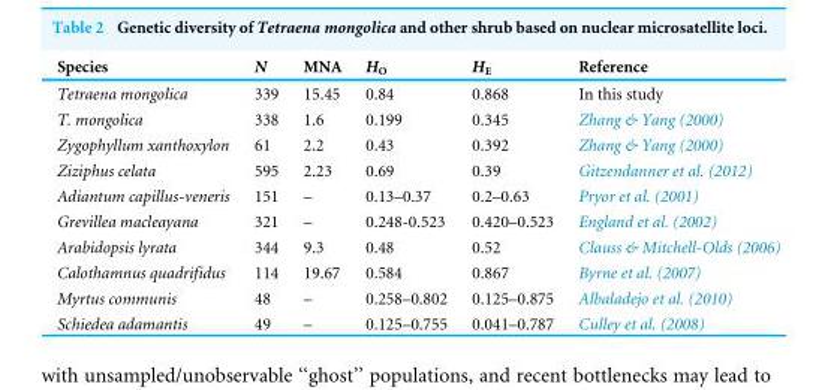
<table><thead><tr><td>Species</td><td>N</td><td>MNA</td><td>H<sub>O</sub></td><td>H<sub>E</sub></td><td>Reference</td></tr></thead><tbody><tr><td>Tetraena mongolica</td><td>339</td><td>15.45</td><td>0.84</td><td>0.868</td><td>In this study</td></tr><tr><td>T. mongolica</td><td>338</td><td>1.6</td><td>0.199</td><td>0.345</td><td>Zhang &amp; Yang (2000)</td></tr><tr><td>Zygophyllum xanthoxylon</td><td>61</td><td>2.2</td><td>0.43</td><td>0.392</td><td>Zhang &amp; Yang (2000)</td></tr><tr><td>Ziziphus celata</td><td>595</td><td>2.23</td><td>0.69</td><td>0.39</td><td>Gitzendanner et al. (2012)</td></tr><tr><td>Adiantum capillus-veneris</td><td>151</td><td>–</td><td>0.13–0.37</td><td>0.2–0.63</td><td>Pryor et al. (2001)</td></tr><tr><td>Grevillea macleayana</td><td>321</td><td>–</td><td>0.248-0.523</td><td>0.420–0.523</td><td>England et al. (2002)</td></tr><tr><td>Arabidopsis lyrata</td><td>344</td><td>9.3</td><td>0.48</td><td>0.52</td><td>Clauss &amp; Mitchell-Olds (2006)</td></tr><tr><td>Calothamnus quadrifidus</td><td>114</td><td>19.67</td><td>0.584</td><td>0.867</td><td>Byrne et al. (2007)</td></tr><tr><td>Myrtus communis</td><td>48</td><td>–</td><td>0.258–0.802</td><td>0.125–0.875</td><td>Albaladejo et al. (2010)</td></tr><tr><td>Schiedea adamantis</td><td>49</td><td>–</td><td>0.125–0.755</td><td>0.041–0.787</td><td>Culley et al. (2008)</td></tr></tbody></table>